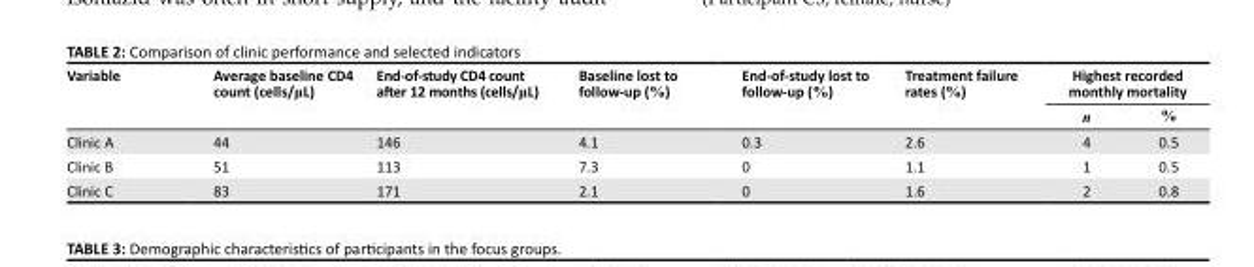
<table><thead><tr><td rowspan="2">Variable</td><td rowspan="2">Average baseline CD4 count (cells/μL)</td><td rowspan="2">End-of-study CD4 count after 12 months (cells/μL)</td><td rowspan="2">Baseline lost to follow-up (%)</td><td rowspan="2">End-of-study lost to follow-up (%)</td><td rowspan="2">Treatment failure rates (%)</td><td colspan="2">Highest recorded monthly mortality</td></tr><tr><td>n</td><td>%</td></tr></thead><tbody><tr><td>Clinic A</td><td>44</td><td>146</td><td>4.1</td><td>0.3</td><td>2.6</td><td>4</td><td>0.5</td></tr><tr><td>Clinic B</td><td>51</td><td>113</td><td>7.3</td><td>0</td><td>1.1</td><td>1</td><td>0.5</td></tr><tr><td>Clinic C</td><td>83</td><td>171</td><td>2.1</td><td>0</td><td>1.6</td><td>2</td><td>0.8</td></tr></tbody></table>